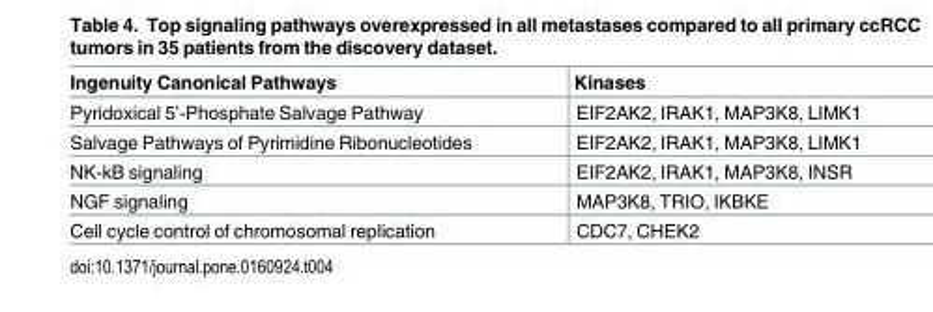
<table><thead><tr><td>Ingenuity Canonical Pathways</td><td>Kinases</td></tr></thead><tbody><tr><td>Pyridoxical 5’-Phosphate Salvage Pathway</td><td>EIF2AK2, IRAK1, MAP3K8, LIMK1</td></tr><tr><td>Salvage Pathways of Pyrimidine Ribonucleotides</td><td>EIF2AK2, IRAK1, MAP3K8, LIMK1</td></tr><tr><td>NK-kB signaling</td><td>EIF2AK2, IRAK1, MAP3K8, INSR</td></tr><tr><td>NGF signaling</td><td>MAP3K8, TRIO, IKBKE</td></tr><tr><td>Cell cycle control of chromosomal replication</td><td>CDC7, CHEK2</td></tr></tbody></table>